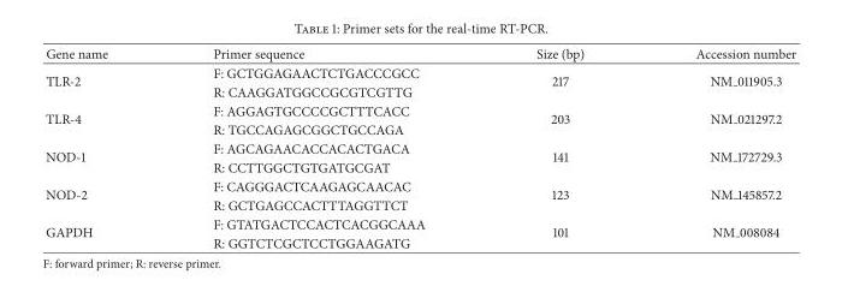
<table><thead><tr><td>Gene name</td><td>Primer sequence</td><td>Size (bp)</td><td>Accession number</td></tr></thead><tbody><tr><td rowspan="2">TLR-2</td><td>F: GCTGGAGAACTCTGACCCGCC</td><td rowspan="2">217</td><td rowspan="2">NM 011905.3</td></tr><tr><td>R: CAAGGATGGCCGCGTCGTTG</td></tr><tr><td rowspan="2">TLR-4</td><td>F: AGGAGTGCCCCGCTTTCACC</td><td rowspan="2">203</td><td rowspan="2">NM 021297.2</td></tr><tr><td>R: TGCCAGAGCGGCTGCCAGA</td></tr><tr><td rowspan="2">NOD-1</td><td>F: AGCAGAACACCACACTGACA</td><td rowspan="2">141</td><td rowspan="2">NM 172729.3</td></tr><tr><td>R: CCTTGGCTGTGATGCGAT</td></tr><tr><td rowspan="2">NOD-2</td><td>F: CAGGGACTCAAGAGCAACAC</td><td rowspan="2">123</td><td rowspan="2">NM 145857.2</td></tr><tr><td>R: GCTGAGCCACTTTAGGTTCT</td></tr><tr><td rowspan="2">GAPDH</td><td>F: GTATGACTCCACTCACGGCAAA</td><td rowspan="2">101</td><td rowspan="2">NM 008084</td></tr><tr><td>R: GGTCTCGCTCCTGGAAGATG</td></tr></tbody></table>